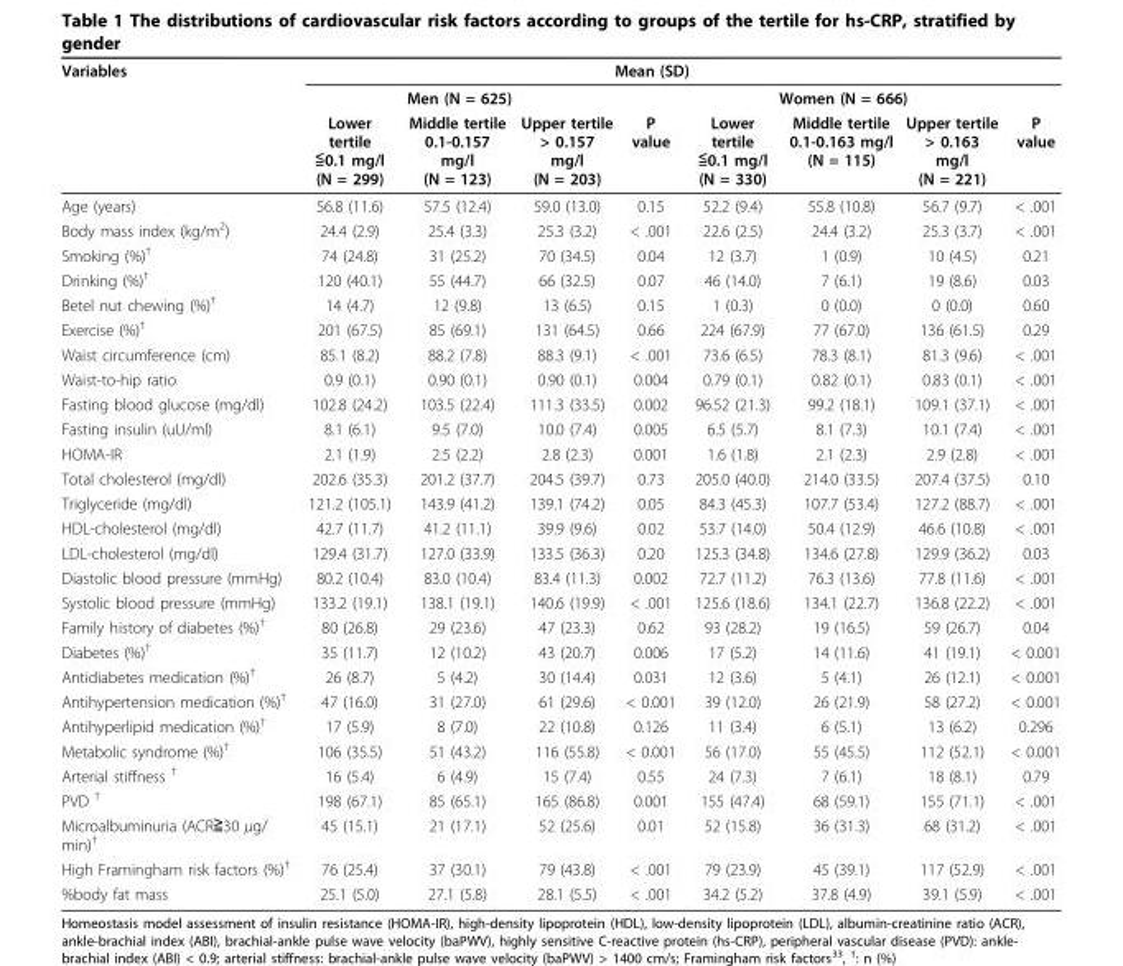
<table><thead><tr><td rowspan="3">Variables</td><td colspan="7">Mean (SD)</td><td rowspan="3">P value</td></tr><tr><td colspan="3">Men (N = 625)</td><td rowspan="2">P value</td><td colspan="3">Women (N = 666)</td></tr><tr><td>Lower tertile ≦0.1 mg/l (N = 299)</td><td>Middle tertile 0.1-0.157 mg/l (N = 123)</td><td>Upper tertile &gt; 0.157 mg/l (N = 203)</td><td>Lower tertile ≦0.1 mg/l (N = 330)</td><td>Middle tertile 0.1-0.163 mg/l (N = 115)</td><td>Upper tertile &gt; 0.163 mg/l (N = 221)</td></tr></thead><tbody><tr><td>Age (years)</td><td>56.8 (11.6)</td><td>57.5 (12.4)</td><td>59.0 (13.0)</td><td>0.15</td><td>52.2 (9.4)</td><td>55.8 (10.8)</td><td>56.7 (9.7)</td><td>&lt; .001</td></tr><tr><td>Body mass index (kg/m<sup>2</sup>)</td><td>24.4 (2.9)</td><td>25.4 (3.3)</td><td>25.3 (3.2)</td><td>&lt; .001</td><td>22.6 (2.5)</td><td>24.4 (3.2)</td><td>25.3 (3.7)</td><td>&lt; .001</td></tr><tr><td>Smoking (%)<sup>†</sup></td><td>74 (24.8)</td><td>31 (25.2)</td><td>70 (34.5)</td><td>0.04</td><td>12 (3.7)</td><td>1 (0.9)</td><td>10 (4.5)</td><td>0.21</td></tr><tr><td>Drinking (%)<sup>†</sup></td><td>120 (40.1)</td><td>55 (44.7)</td><td>66 (32.5)</td><td>0.07</td><td>46 (14.0)</td><td>7 (6.1)</td><td>19 (8.6)</td><td>0.03</td></tr><tr><td>Betel nut chewing (%)<sup>†</sup></td><td>14 (4.7)</td><td>12 (9.8)</td><td>13 (6.5)</td><td>0.15</td><td>1 (0.3)</td><td>0 (0.0)</td><td>0 (0.0)</td><td>0.60</td></tr><tr><td>Exercise (%)<sup>†</sup></td><td>201 (67.5)</td><td>85 (69.1)</td><td>131 (64.5)</td><td>0.66</td><td>224 (67.9)</td><td>77 (67.0)</td><td>136 (61.5)</td><td>0.29</td></tr><tr><td>Waist circumference (cm)</td><td>85.1 (8.2)</td><td>88.2 (7.8)</td><td>88.3 (9.1)</td><td>&lt; .001</td><td>73.6 (6.5)</td><td>78.3 (8.1)</td><td>81.3 (9.6)</td><td>&lt; .001</td></tr><tr><td>Waist-to-hip ratio</td><td>0.9 (0.1)</td><td>0.90 (0.1)</td><td>0.90 (0.1)</td><td>0.004</td><td>0.79 (0.1)</td><td>0.82 (0.1)</td><td>0.83 (0.1)</td><td>&lt; .001</td></tr><tr><td>Fasting blood glucose (mg/dl)</td><td>102.8 (24.2)</td><td>103.5 (22.4)</td><td>111.3 (33.5)</td><td>0.002</td><td>96.52 (21.3)</td><td>99.2 (18.1)</td><td>109.1 (37.1)</td><td>&lt; .001</td></tr><tr><td>Fasting insulin (uU/ml)</td><td>8.1 (6.1)</td><td>9.5 (7.0)</td><td>10.0 (7.4)</td><td>0.005</td><td>6.5 (5.7)</td><td>8.1 (7.3)</td><td>10.1 (7.4)</td><td>&lt; .001</td></tr><tr><td>HOMA-IR</td><td>2.1 (1.9)</td><td>2.5 (2.2)</td><td>2.8 (2.3)</td><td>0.001</td><td>1.6 (1.8)</td><td>2.1 (2.3)</td><td>2.9 (2.8)</td><td>&lt; .001</td></tr><tr><td>Total cholesterol (mg/dl)</td><td>202.6 (35.3)</td><td>201.2 (37.7)</td><td>204.5 (39.7)</td><td>0.73</td><td>205.0 (40.0)</td><td>214.0 (33.5)</td><td>207.4 (37.5)</td><td>0.10</td></tr><tr><td>Triglyceride (mg/dl)</td><td>121.2 (105.1)</td><td>143.9 (41.2)</td><td>139.1 (74.2)</td><td>0.05</td><td>84.3 (45.3)</td><td>107.7 (53.4)</td><td>127.2 (88.7)</td><td>&lt; .001</td></tr><tr><td>HDL-cholesterol (mg/dl)</td><td>42.7 (11.7)</td><td>41.2 (11.1)</td><td>39.9 (9.6)</td><td>0.02</td><td>53.7 (14.0)</td><td>50.4 (12.9)</td><td>46.6 (10.8)</td><td>&lt; .001</td></tr><tr><td>LDL-cholesterol (mg/dl)</td><td>129.4 (31.7)</td><td>127.0 (33.9)</td><td>133.5 (36.3)</td><td>0.20</td><td>125.3 (34.8)</td><td>134.6 (27.8)</td><td>129.9 (36.2)</td><td>0.03</td></tr><tr><td>Diastolic blood pressure (mmHg)</td><td>80.2 (10.4)</td><td>83.0 (10.4)</td><td>83.4 (11.3)</td><td>0.002</td><td>72.7 (11.2)</td><td>76.3 (13.6)</td><td>77.8 (11.6)</td><td>&lt; .001</td></tr><tr><td>Systolic blood pressure (mmHg)</td><td>133.2 (19.1)</td><td>138.1 (19.1)</td><td>140.6 (19.9)</td><td>&lt; .001</td><td>125.6 (18.6)</td><td>134.1 (22.7)</td><td>136.8 (22.2)</td><td>&lt; .001</td></tr><tr><td>Family history of diabetes (%)<sup>†</sup></td><td>80 (26.8)</td><td>29 (23.6)</td><td>47 (23.3)</td><td>0.62</td><td>93 (28.2)</td><td>19 (16.5)</td><td>59 (26.7)</td><td>0.04</td></tr><tr><td>Diabetes (%)<sup>†</sup></td><td>35 (11.7)</td><td>12 (10.2)</td><td>43 (20.7)</td><td>0.006</td><td>17 (5.2)</td><td>14 (11.6)</td><td>41 (19.1)</td><td>&lt; 0.001</td></tr><tr><td>Antidiabetes medication (%)<sup>†</sup></td><td>26 (8.7)</td><td>5 (4.2)</td><td>30 (14.4)</td><td>0.031</td><td>12 (3.6)</td><td>5 (4.1)</td><td>26 (12.1)</td><td>&lt; 0.001</td></tr><tr><td>Antihypertension medication (%)<sup>†</sup></td><td>47 (16.0)</td><td>31 (27.0)</td><td>61 (29.6)</td><td>&lt; 0.001</td><td>39 (12.0)</td><td>26 (21.9)</td><td>58 (27.2)</td><td>&lt; 0.001</td></tr><tr><td>Antihyperlipid medication (%)<sup>†</sup></td><td>17 (5.9)</td><td>8 (7.0)</td><td>22 (10.8)</td><td>0.126</td><td>11 (3.4)</td><td>6 (5.1)</td><td>13 (6.2)</td><td>0.296</td></tr><tr><td>Metabolic syndrome (%)<sup>†</sup></td><td>106 (35.5)</td><td>51 (43.2)</td><td>116 (55.8)</td><td>&lt; 0.001</td><td>56 (17.0)</td><td>55 (45.5)</td><td>112 (52.1)</td><td>&lt; 0.001</td></tr><tr><td>Arterial stiffness <sup>†</sup></td><td>16 (5.4)</td><td>6 (4.9)</td><td>15 (7.4)</td><td>0.55</td><td>24 (7.3)</td><td>7 (6.1)</td><td>18 (8.1)</td><td>0.79</td></tr><tr><td>PVD <sup>†</sup></td><td>198 (67.1)</td><td>85 (65.1)</td><td>165 (86.8)</td><td>0.001</td><td>155 (47.4)</td><td>68 (59.1)</td><td>155 (71.1)</td><td>&lt; .001</td></tr><tr><td>Microalbuminuria (ACR≧30 μg/ min)<sup>†</sup></td><td>45 (15.1)</td><td>21 (17.1)</td><td>52 (25.6)</td><td>0.01</td><td>52 (15.8)</td><td>36 (31.3)</td><td>68 (31.2)</td><td>&lt; .001</td></tr><tr><td>High Framingham risk factors (%)<sup>†</sup></td><td>76 (25.4)</td><td>37 (30.1)</td><td>79 (43.8)</td><td>&lt; .001</td><td>79 (23.9)</td><td>45 (39.1)</td><td>117 (52.9)</td><td>&lt; .001</td></tr><tr><td>%body fat mass</td><td>25.1 (5.0)</td><td>27.1 (5.8)</td><td>28.1 (5.5)</td><td>&lt; .001</td><td>34.2 (5.2)</td><td>37.8 (4.9)</td><td>39.1 (5.9)</td><td>&lt; .001</td></tr></tbody></table>